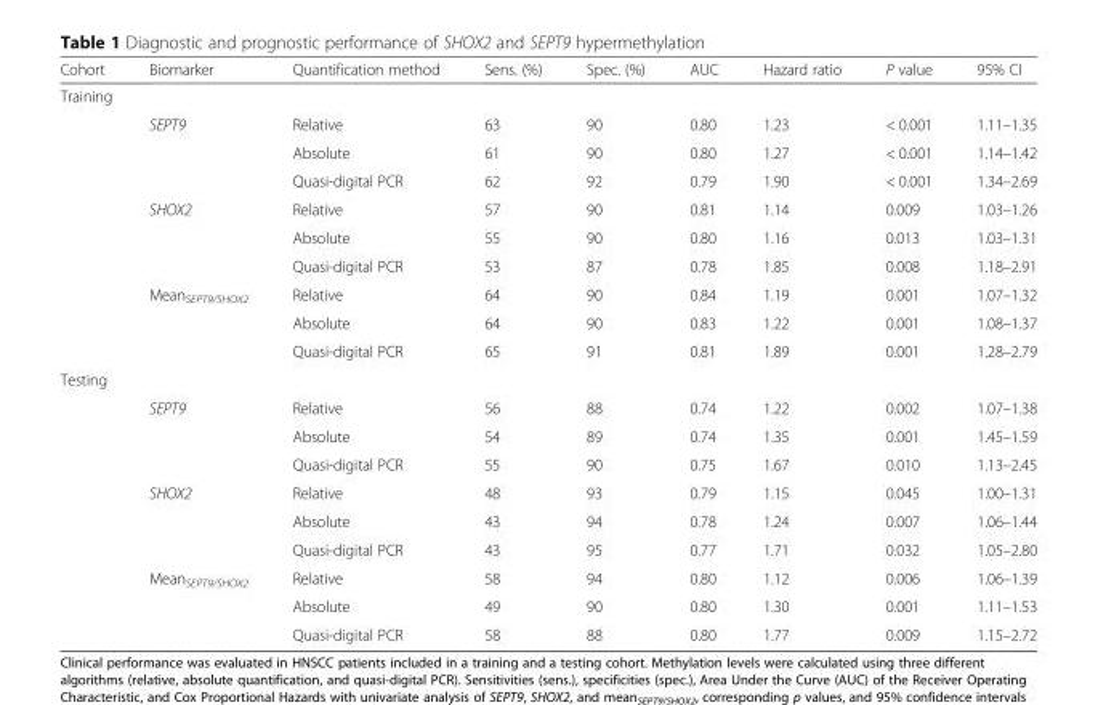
<table><thead><tr><td>Cohort</td><td>Biomarker</td><td>Quantification method</td><td>Sens. (%)</td><td>Spec. (%)</td><td>AUC</td><td>Hazard ratio</td><td>P value</td><td>95% CI</td></tr></thead><tbody><tr><td colspan="9">Training</td></tr><tr><td rowspan="9"></td><td rowspan="3">SEPT9</td><td>Relative</td><td>63</td><td>90</td><td>0.80</td><td>1.23</td><td>&lt; 0.001</td><td>1.11–1.35</td></tr><tr><td>Absolute</td><td>61</td><td>90</td><td>0.80</td><td>1.27</td><td>&lt; 0.001</td><td>1.14–1.42</td></tr><tr><td>Quasi-digital PCR</td><td>62</td><td>92</td><td>0.79</td><td>1.90</td><td>&lt; 0.001</td><td>1.34–2.69</td></tr><tr><td rowspan="3">SHOX2</td><td>Relative</td><td>57</td><td>90</td><td>0.81</td><td>1.14</td><td>0.009</td><td>1.03–1.26</td></tr><tr><td>Absolute</td><td>55</td><td>90</td><td>0.80</td><td>1.16</td><td>0.013</td><td>1.03–1.31</td></tr><tr><td>Quasi-digital PCR</td><td>53</td><td>87</td><td>0.78</td><td>1.85</td><td>0.008</td><td>1.18–2.91</td></tr><tr><td rowspan="3">Mean<sub>SEPT9/SHOX2</sub></td><td>Relative</td><td>64</td><td>90</td><td>0.84</td><td>1.19</td><td>0.001</td><td>1.07–1.32</td></tr><tr><td>Absolute</td><td>64</td><td>90</td><td>0.83</td><td>1.22</td><td>0.001</td><td>1.08–1.37</td></tr><tr><td>Quasi-digital PCR</td><td>65</td><td>91</td><td>0.81</td><td>1.89</td><td>0.001</td><td>1.28–2.79</td></tr><tr><td colspan="9">Testing</td></tr><tr><td rowspan="9"></td><td rowspan="3">SEPT9</td><td>Relative</td><td>56</td><td>88</td><td>0.74</td><td>1.22</td><td>0.002</td><td>1.07–1.38</td></tr><tr><td>Absolute</td><td>54</td><td>89</td><td>0.74</td><td>1.35</td><td>0.001</td><td>1.45–1.59</td></tr><tr><td>Quasi-digital PCR</td><td>55</td><td>90</td><td>0.75</td><td>1.67</td><td>0.010</td><td>1.13–2.45</td></tr><tr><td rowspan="3">SHOX2</td><td>Relative</td><td>48</td><td>93</td><td>0.79</td><td>1.15</td><td>0.045</td><td>1.00–1.31</td></tr><tr><td>Absolute</td><td>43</td><td>94</td><td>0.78</td><td>1.24</td><td>0.007</td><td>1.06–1.44</td></tr><tr><td>Quasi-digital PCR</td><td>43</td><td>95</td><td>0.77</td><td>1.71</td><td>0.032</td><td>1.05–2.80</td></tr><tr><td rowspan="3">Mean<sub>SEPT9/SHOX2</sub></td><td>Relative</td><td>58</td><td>94</td><td>0.80</td><td>1.12</td><td>0.006</td><td>1.06–1.39</td></tr><tr><td>Absolute</td><td>49</td><td>90</td><td>0.80</td><td>1.30</td><td>0.001</td><td>1.11–1.53</td></tr><tr><td>Quasi-digital PCR</td><td>58</td><td>88</td><td>0.80</td><td>1.77</td><td>0.009</td><td>1.15–2.72</td></tr></tbody></table>